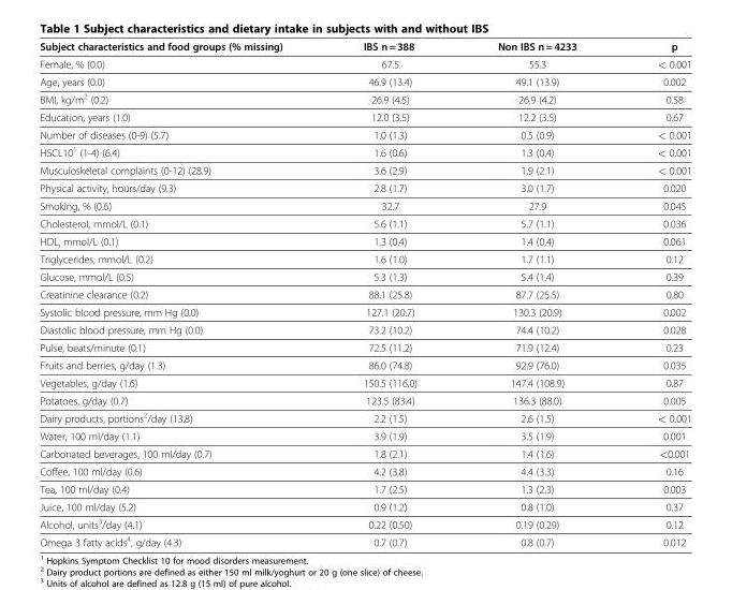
<table><thead><tr><td>Subject characteristics and food groups (% missing)</td><td>IBS n = 388</td><td>Non IBS n = 4233</td><td>p</td></tr></thead><tbody><tr><td>Female, % (0.0)</td><td>67.5</td><td>55.3</td><td>&lt; 0.001</td></tr><tr><td>Age, years (0.0)</td><td>46.9 (13.4)</td><td>49.1 (13.9)</td><td>0.002</td></tr><tr><td>BMI, kg/m<sup>2</sup> (0.2)</td><td>26.9 (4.5)</td><td>26.9 (4.2)</td><td>0.58</td></tr><tr><td>Education, years (1.0)</td><td>12.0 (3.5)</td><td>12.2 (3.5)</td><td>0.67</td></tr><tr><td>Number of diseases (0-9) (5.7)</td><td>1.0 (1.3)</td><td>0.5 (0.9)</td><td>&lt; 0.001</td></tr><tr><td>HSCL10<sup>1</sup> (1-4) (6.4)</td><td>1.6 (0.6)</td><td>1.3 (0.4)</td><td>&lt; 0.001</td></tr><tr><td>Musculoskeletal complaints (0-12) (28.9)</td><td>3.6 (2.9)</td><td>1.9 (2.1)</td><td>&lt; 0.001</td></tr><tr><td>Physical activity, hours/day (9.3)</td><td>2.8 (1.7)</td><td>3.0 (1.7)</td><td>0.020</td></tr><tr><td>Smoking, % (0.6)</td><td>32.7</td><td>27.9</td><td>0.045</td></tr><tr><td>Cholesterol, mmol/L (0.1)</td><td>5.6 (1.1)</td><td>5.7 (1.1)</td><td>0.036</td></tr><tr><td>HDL, mmol/L (0.1)</td><td>1.3 (0.4)</td><td>1.4 (0.4)</td><td>0.061</td></tr><tr><td>Triglycerides, mmol/L (0.2)</td><td>1.6 (1.0)</td><td>1.7 (1.1)</td><td>0.12</td></tr><tr><td>Glucose, mmol/L (0.5)</td><td>5.3 (1.3)</td><td>5.4 (1.4)</td><td>0.39</td></tr><tr><td>Creatinine clearance (0.2)</td><td>88.1 (25.8)</td><td>87.7 (25.5)</td><td>0.80</td></tr><tr><td>Systolic blood pressure, mm Hg (0.0)</td><td>127.1 (20.7)</td><td>130.3 (20.9)</td><td>0.002</td></tr><tr><td>Diastolic blood pressure, mm Hg (0.0)</td><td>73.2 (10.2)</td><td>74.4 (10.2)</td><td>0.028</td></tr><tr><td>Pulse, beats/minute (0.1)</td><td>72.5 (11.2)</td><td>71.9 (12.4)</td><td>0.23</td></tr><tr><td>Fruits and berries, g/day (1.3)</td><td>86.0 (74.8)</td><td>92.9 (76.0)</td><td>0.035</td></tr><tr><td>Vegetables, g/day (1.6)</td><td>150.5 (116.0)</td><td>147.4 (108.9)</td><td>0.87</td></tr><tr><td>Potatoes, g/day (0.7)</td><td>123.5 (83.4)</td><td>136.3 (88.0)</td><td>0.005</td></tr><tr><td>Dairy products, portions<sup>2</sup>/day (13.8)</td><td>2.2 (1.5)</td><td>2.6 (1.5)</td><td>&lt; 0.001</td></tr><tr><td>Water, 100 ml/day (1.1)</td><td>3.9 (1.9)</td><td>3.5 (1.9)</td><td>0.001</td></tr><tr><td>Carbonated beverages, 100 ml/day (0.7)</td><td>1.8 (2.1)</td><td>1.4 (1.6)</td><td>&lt;0.001</td></tr><tr><td>Coffee, 100 ml/day (0.6)</td><td>4.2 (3.8)</td><td>4.4 (3.3)</td><td>0.16</td></tr><tr><td>Tea, 100 ml/day (0.4)</td><td>1.7 (2.5)</td><td>1.3 (2.3)</td><td>0.003</td></tr><tr><td>Juice, 100 ml/day (5.2)</td><td>0.9 (1.2)</td><td>0.8 (1.0)</td><td>0.37</td></tr><tr><td>Alcohol, units<sup>3</sup>/day (4.1)</td><td>0.22 (0.50)</td><td>0.19 (0.29)</td><td>0.12</td></tr><tr><td>Omega 3 fatty acids<sup>4</sup>, g/day (4.3)</td><td>0.7 (0.7)</td><td>0.8 (0.7)</td><td>0.012</td></tr></tbody></table>